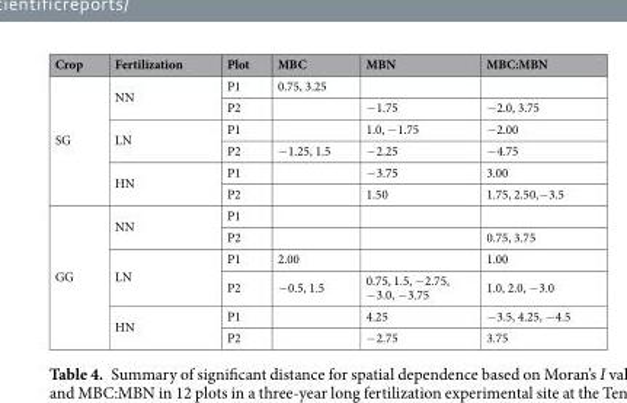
<table><thead><tr><td>Crop</td><td>Fertilization</td><td>Plot</td><td>MBC</td><td>MBN</td><td>MBC:MBN</td></tr></thead><tbody><tr><td rowspan="6">SG</td><td rowspan="2">NN</td><td>P1</td><td>0.75, 3.25</td><td></td><td></td></tr><tr><td>P2</td><td></td><td>−1.75</td><td>−2.0, 3.75</td></tr><tr><td rowspan="2">LN</td><td>P1</td><td></td><td>1.0, −1.75</td><td>−2.00</td></tr><tr><td>P2</td><td>−1.25, 1.5</td><td>−2.25</td><td>−4.75</td></tr><tr><td rowspan="2">HN</td><td>P1</td><td></td><td>−3.75</td><td>3.00</td></tr><tr><td>P2</td><td></td><td>1.50</td><td>1.75, 2.50,−3.5</td></tr><tr><td rowspan="6">GG</td><td rowspan="2">NN</td><td>P1</td><td></td><td></td><td></td></tr><tr><td>P2</td><td></td><td></td><td>0.75, 3.75</td></tr><tr><td rowspan="2">LN</td><td>P1</td><td>2.00</td><td></td><td>1.00</td></tr><tr><td>P2</td><td>−0.5, 1.5</td><td>0.75, 1.5, −2.75, −3.0, −3.75</td><td>1.0, 2.0, −3.0</td></tr><tr><td rowspan="2">HN</td><td>P1</td><td></td><td>4.25</td><td>−3.5, 4.25, −4.5</td></tr><tr><td>P2</td><td></td><td>−2.75</td><td>3.75</td></tr></tbody></table>